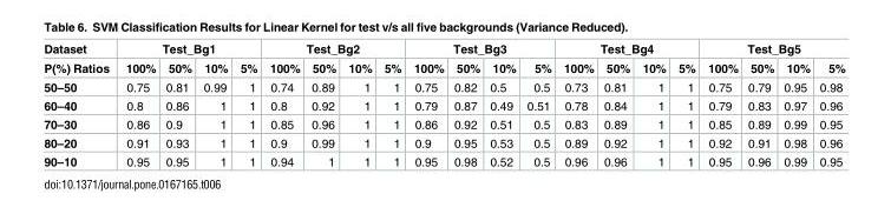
<table><thead><tr><td rowspan="2">Dataset P(%) Ratios</td><td colspan="4">Test_Bg1</td><td colspan="4">Test_Bg2</td><td colspan="4">Test_Bg3</td><td colspan="4">Test_Bg4</td><td colspan="4">Test_Bg5</td></tr><tr><td>100%</td><td>50%</td><td>10%</td><td>5%</td><td>100%</td><td>50%</td><td>10%</td><td>5%</td><td>100%</td><td>50%</td><td>10%</td><td>5%</td><td>100%</td><td>50%</td><td>10%</td><td>5%</td><td>100%</td><td>50%</td><td>10%</td><td>5%</td></tr></thead><tbody><tr><td>50–50</td><td>0.75</td><td>0.81</td><td>0.99</td><td>1</td><td>0.74</td><td>0.89</td><td>1</td><td>1</td><td>0.75</td><td>0.82</td><td>0.5</td><td>0.5</td><td>0.73</td><td>0.81</td><td>1</td><td>1</td><td>0.75</td><td>0.79</td><td>0.95</td><td>0.98</td></tr><tr><td>60–40</td><td>0.8</td><td>0.86</td><td>1</td><td>1</td><td>0.8</td><td>0.92</td><td>1</td><td>1</td><td>0.79</td><td>0.87</td><td>0.49</td><td>0.51</td><td>0.78</td><td>0.84</td><td>1</td><td>1</td><td>0.79</td><td>0.83</td><td>0.97</td><td>0.96</td></tr><tr><td>70–30</td><td>0.86</td><td>0.9</td><td>1</td><td>1</td><td>0.85</td><td>0.96</td><td>1</td><td>1</td><td>0.86</td><td>0.92</td><td>0.51</td><td>0.5</td><td>0.83</td><td>0.89</td><td>1</td><td>1</td><td>0.85</td><td>0.89</td><td>0.99</td><td>0.95</td></tr><tr><td>80–20</td><td>0.91</td><td>0.93</td><td>1</td><td>1</td><td>0.9</td><td>0.99</td><td>1</td><td>1</td><td>0.9</td><td>0.95</td><td>0.53</td><td>0.5</td><td>0.89</td><td>0.92</td><td>1</td><td>1</td><td>0.92</td><td>0.91</td><td>0.98</td><td>0.96</td></tr><tr><td>90–10</td><td>0.95</td><td>0.95</td><td>1</td><td>1</td><td>0.94</td><td>1</td><td>1</td><td>1</td><td>0.95</td><td>0.98</td><td>0.52</td><td>0.5</td><td>0.96</td><td>0.96</td><td>1</td><td>1</td><td>0.95</td><td>0.96</td><td>0.99</td><td>0.95</td></tr></tbody></table>